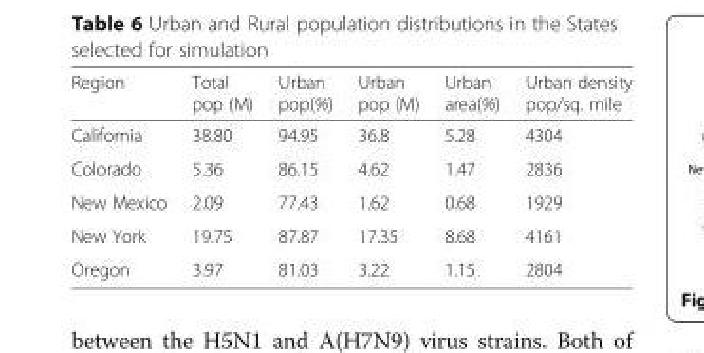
<table><thead><tr><td>Region</td><td>Total pop (M)</td><td>Urban pop(%)</td><td>Urban pop (M)</td><td>Urban area(%)</td><td>Urban density pop/sq. mile</td></tr></thead><tbody><tr><td>California</td><td>38.80</td><td>94.95</td><td>36.8</td><td>5.28</td><td>4304</td></tr><tr><td>Colorado</td><td>5.36</td><td>86.15</td><td>4.62</td><td>1.47</td><td>2836</td></tr><tr><td>New Mexico</td><td>2.09</td><td>77.43</td><td>1.62</td><td>0.68</td><td>1929</td></tr><tr><td>New York</td><td>19.75</td><td>87.87</td><td>17.35</td><td>8.68</td><td>4161</td></tr><tr><td>Oregon</td><td>3.97</td><td>81.03</td><td>3.22</td><td>1.15</td><td>2804</td></tr></tbody></table>